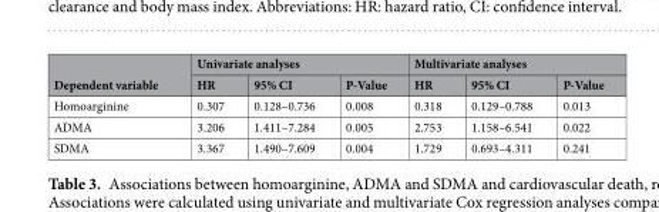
<table><thead><tr><td rowspan="2">Dependent variable</td><td colspan="3">Univariate analyses</td><td colspan="3">Multivariate analyses</td></tr><tr><td>HR</td><td>95% CI</td><td>P-Value</td><td>HR</td><td>95% CI</td><td>P-Value</td></tr></thead><tbody><tr><td>Homoarginine</td><td>0.307</td><td>0.128–0.736</td><td>0.008</td><td>0.318</td><td>0.129–0.788</td><td>0.013</td></tr><tr><td>ADMA</td><td>3.206</td><td>1.411–7.284</td><td>0.005</td><td>2.753</td><td>1.158–6.541</td><td>0.022</td></tr><tr><td>SDMA</td><td>3.367</td><td>1.490–7.609</td><td>0.004</td><td>1.729</td><td>0.693–4.311</td><td>0.241</td></tr></tbody></table>